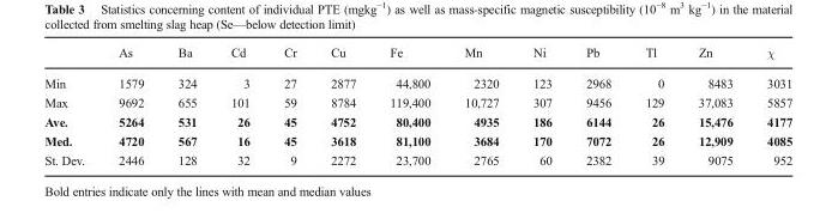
<table><thead><tr><td></td><td>As</td><td>Ba</td><td>Cd</td><td>Cr</td><td>Cu</td><td>Fe</td><td>Mn</td><td>Ni</td><td>Pb</td><td>Tl</td><td>Zn</td><td>χ</td></tr></thead><tbody><tr><td>Min</td><td>1579</td><td>324</td><td>3</td><td>27</td><td>2877</td><td>44,800</td><td>2320</td><td>123</td><td>2968</td><td>0</td><td>8483</td><td>3031</td></tr><tr><td>Max</td><td>9692</td><td>655</td><td>101</td><td>59</td><td>8784</td><td>119,400</td><td>10,727</td><td>307</td><td>9456</td><td>129</td><td>37,083</td><td>5857</td></tr><tr><td>Ave.</td><td>5264</td><td>531</td><td>26</td><td>45</td><td>4752</td><td>80,400</td><td>4935</td><td>186</td><td>6144</td><td>26</td><td>15,476</td><td>4177</td></tr><tr><td>Med.</td><td>4720</td><td>567</td><td>16</td><td>45</td><td>3618</td><td>81,100</td><td>3684</td><td>170</td><td>7072</td><td>26</td><td>12,909</td><td>4085</td></tr><tr><td>St. Dev.</td><td>2446</td><td>128</td><td>32</td><td>9</td><td>2272</td><td>23,700</td><td>2765</td><td>60</td><td>2382</td><td>39</td><td>9075</td><td>952</td></tr></tbody></table>